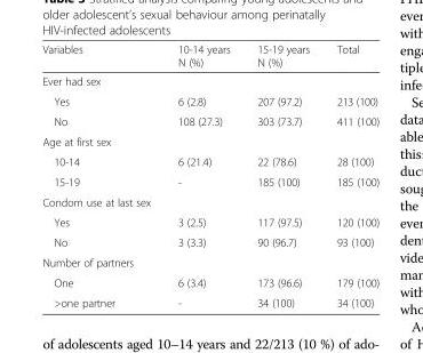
<table><thead><tr><td>Variables</td><td>10-14 years N (%)</td><td>15-19 years N (%)</td><td>Total</td></tr></thead><tbody><tr><td colspan="4">Ever had sex</td></tr><tr><td>Yes</td><td>6 (2.8)</td><td>207 (97.2)</td><td>213 (100)</td></tr><tr><td>No</td><td>108 (27.3)</td><td>303 (73.7)</td><td>411 (100)</td></tr><tr><td colspan="4">Age at first sex</td></tr><tr><td>10-14</td><td>6 (21.4)</td><td>22 (78.6)</td><td>28 (100)</td></tr><tr><td>15-19</td><td>-</td><td>185 (100)</td><td>185 (100)</td></tr><tr><td colspan="4">Condom use at last sex</td></tr><tr><td>Yes</td><td>3 (2.5)</td><td>117 (97.5)</td><td>120 (100)</td></tr><tr><td>No</td><td>3 (3.3)</td><td>90 (96.7)</td><td>93 (100)</td></tr><tr><td colspan="4">Number of partners</td></tr><tr><td>One</td><td>6 (3.4)</td><td>173 (96.6)</td><td>179 (100)</td></tr><tr><td>&gt;one partner</td><td>-</td><td>34 (100)</td><td>34 (100)</td></tr></tbody></table>